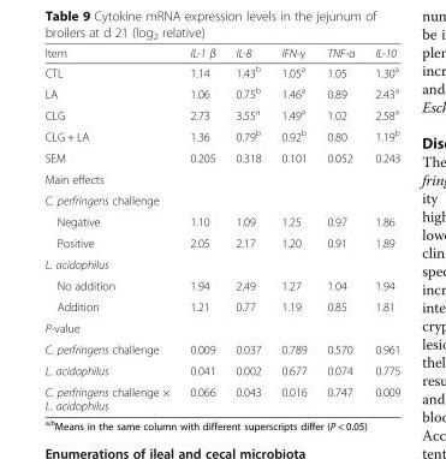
<table><thead><tr><td>Item</td><td>IL-1 β</td><td>IL-8</td><td>IFN-γ</td><td>TNF-α</td><td>IL-10</td></tr></thead><tbody><tr><td>CTL</td><td>1.14</td><td>1.43<sup>b</sup></td><td>1.05<sup>a</sup></td><td>1.05</td><td>1.30<sup>a</sup></td></tr><tr><td>LA</td><td>1.06</td><td>0.75<sup>b</sup></td><td>1.46<sup>a</sup></td><td>0.89</td><td>2.43<sup>a</sup></td></tr><tr><td>CLG</td><td>2.73</td><td>3.55<sup>a</sup></td><td>1.49<sup>a</sup></td><td>1.02</td><td>2.58<sup>a</sup></td></tr><tr><td>CLG + LA</td><td>1.36</td><td>0.79<sup>b</sup></td><td>0.92<sup>b</sup></td><td>0.80</td><td>1.19<sup>b</sup></td></tr><tr><td>SEM</td><td>0.205</td><td>0.318</td><td>0.101</td><td>0.052</td><td>0.243</td></tr><tr><td colspan="6">Main effects</td></tr><tr><td colspan="6">C. perfringens challenge</td></tr><tr><td>Negative</td><td>1.10</td><td>1.09</td><td>1.25</td><td>0.97</td><td>1.86</td></tr><tr><td>Positive</td><td>2.05</td><td>2.17</td><td>1.20</td><td>0.91</td><td>1.89</td></tr><tr><td colspan="6">L. acidophilus</td></tr><tr><td>No addition</td><td>1.94</td><td>2.49</td><td>1.27</td><td>1.04</td><td>1.94</td></tr><tr><td>Addition</td><td>1.21</td><td>0.77</td><td>1.19</td><td>0.85</td><td>1.81</td></tr><tr><td colspan="6">P-value</td></tr><tr><td>C. perfringens challenge</td><td>0.009</td><td>0.037</td><td>0.789</td><td>0.570</td><td>0.961</td></tr><tr><td>L. acidophilus</td><td>0.041</td><td>0.002</td><td>0.677</td><td>0.074</td><td>0.775</td></tr><tr><td>C. perfringens challenge × L. acidophilus</td><td>0.066</td><td>0.043</td><td>0.016</td><td>0.747</td><td>0.009</td></tr></tbody></table>